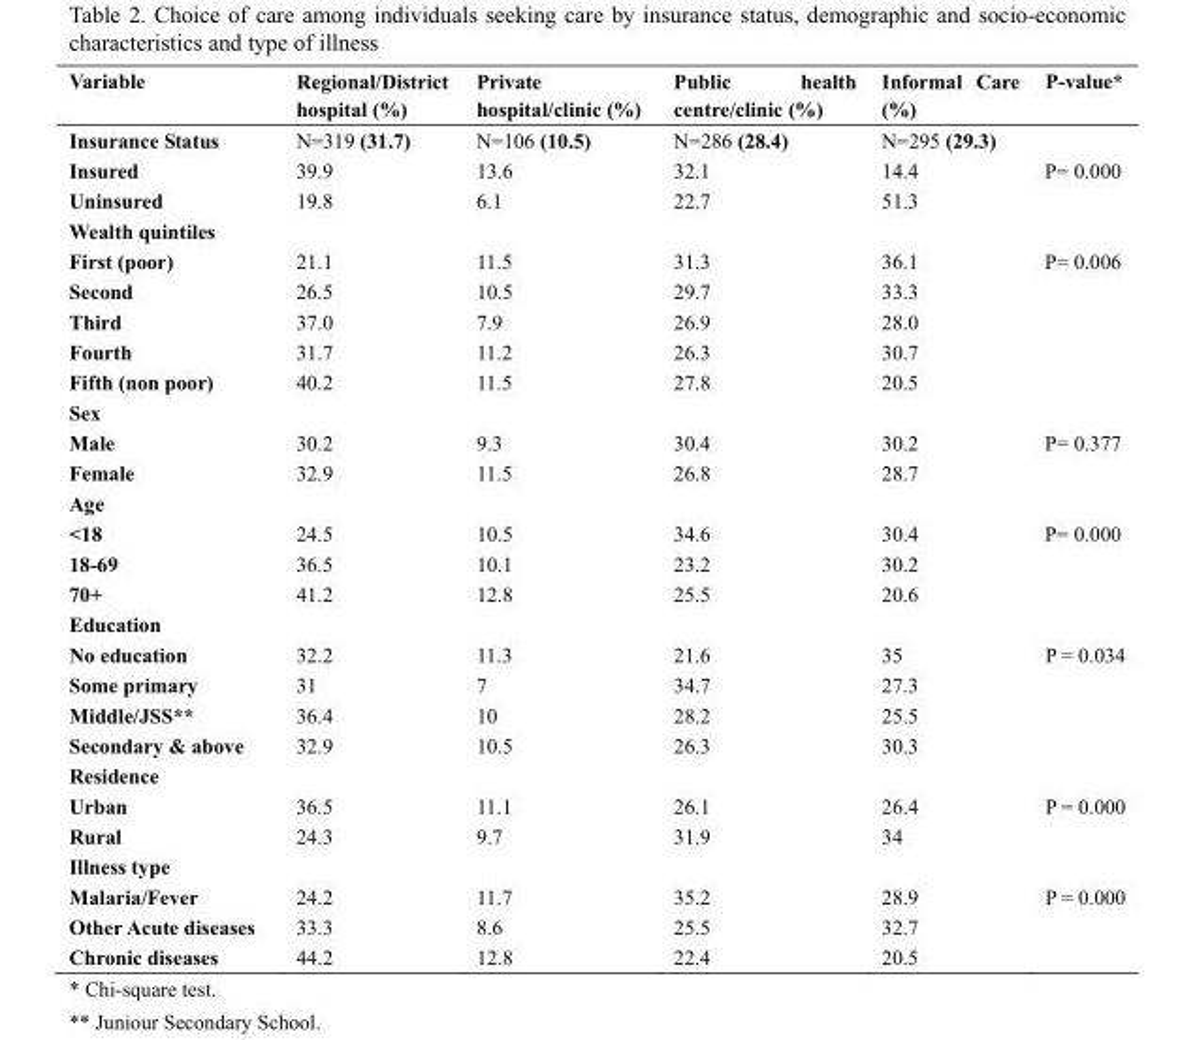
<table><thead><tr><td>Variable</td><td>Regional/District hospital (%)</td><td>Private hospital/clinic (%)</td><td>Public health centre/clinic (%)</td><td>Informal Care (%)</td><td>P-value*</td></tr></thead><tbody><tr><td>Insurance Status</td><td>N=319 (31.7)</td><td>N=106 (10.5)</td><td>N=286 (28.4)</td><td>N=295 (29.3)</td><td></td></tr><tr><td>Insured</td><td>39.9</td><td>13.6</td><td>32.1</td><td>14.4</td><td>P= 0.000</td></tr><tr><td>Uninsured</td><td>19.8</td><td>6.1</td><td>22.7</td><td>51.3</td><td></td></tr><tr><td colspan="6">Wealth quintiles</td></tr><tr><td>First (poor)</td><td>21.1</td><td>11.5</td><td>31.3</td><td>36.1</td><td>P= 0.006</td></tr><tr><td>Second</td><td>26.5</td><td>10.5</td><td>29.7</td><td>33.3</td><td></td></tr><tr><td>Third</td><td>37.0</td><td>7.9</td><td>26.9</td><td>28.0</td><td></td></tr><tr><td>Fourth</td><td>31.7</td><td>11.2</td><td>26.3</td><td>30.7</td><td></td></tr><tr><td>Fifth (non poor)</td><td>40.2</td><td>11.5</td><td>27.8</td><td>20.5</td><td></td></tr><tr><td colspan="6">Sex</td></tr><tr><td>Male</td><td>30.2</td><td>9.3</td><td>30.4</td><td>30.2</td><td>P= 0.377</td></tr><tr><td>Female</td><td>32.9</td><td>11.5</td><td>26.8</td><td>28.7</td><td></td></tr><tr><td colspan="6">Age</td></tr><tr><td>&lt;18</td><td>24.5</td><td>10.5</td><td>34.6</td><td>30.4</td><td>P= 0.000</td></tr><tr><td>18-69</td><td>36.5</td><td>10.1</td><td>23.2</td><td>30.2</td><td></td></tr><tr><td>70+</td><td>41.2</td><td>12.8</td><td>25.5</td><td>20.6</td><td></td></tr><tr><td colspan="6">Education</td></tr><tr><td>No education</td><td>32.2</td><td>11.3</td><td>21.6</td><td>35</td><td>P = 0.034</td></tr><tr><td>Some primary</td><td>31</td><td>7</td><td>34.7</td><td>27.3</td><td></td></tr><tr><td>Middle/JSS**</td><td>36.4</td><td>10</td><td>28.2</td><td>25.5</td><td></td></tr><tr><td>Secondary &amp; above</td><td>32.9</td><td>10.5</td><td>26.3</td><td>30.3</td><td></td></tr><tr><td colspan="6">Residence</td></tr><tr><td>Urban</td><td>36.5</td><td>11.1</td><td>26.1</td><td>26.4</td><td>P = 0.000</td></tr><tr><td>Rural</td><td>24.3</td><td>9.7</td><td>31.9</td><td>34</td><td></td></tr><tr><td colspan="6">Illness type</td></tr><tr><td>Malaria/Fever</td><td>24.2</td><td>11.7</td><td>35.2</td><td>28.9</td><td>P = 0.000</td></tr><tr><td>Other Acute diseases</td><td>33.3</td><td>8.6</td><td>25.5</td><td>32.7</td><td></td></tr><tr><td>Chronic diseases</td><td>44.2</td><td>12.8</td><td>22.4</td><td>20.5</td><td></td></tr></tbody></table>